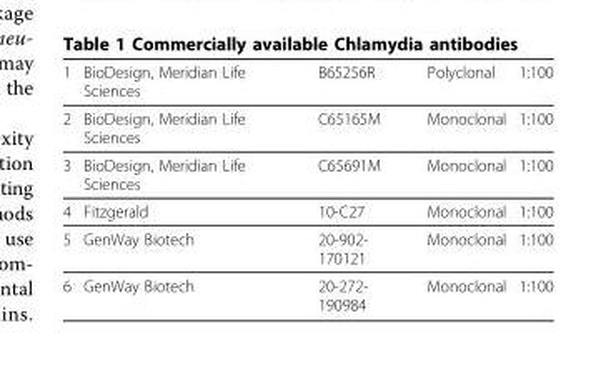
<table><thead><tr><td>1</td><td>BioDesign, Meridian Life Sciences</td><td>B65256R</td><td>Polyclonal</td><td>1:100</td></tr></thead><tbody><tr><td>2</td><td>BioDesign, Meridian Life Sciences</td><td>C65165M</td><td>Monoclonal</td><td>1:100</td></tr><tr><td>3</td><td>BioDesign, Meridian Life Sciences</td><td>C65691M</td><td>Monoclonal</td><td>1:100</td></tr><tr><td>4</td><td>Fitzgerald</td><td>10-C27</td><td>Monoclonal</td><td>1:100</td></tr><tr><td>5</td><td>GenWay Biotech</td><td>20-902- 170121</td><td>Monoclonal</td><td>1:100</td></tr><tr><td>6</td><td>GenWay Biotech</td><td>20-272- 190984</td><td>Monoclonal</td><td>1:100</td></tr></tbody></table>